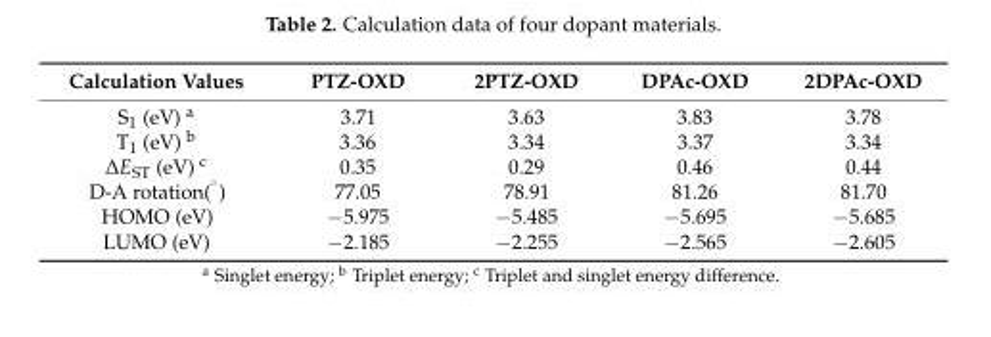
<table><thead><tr><td>Calculation Values</td><td>PTZ-OXD</td><td>2PTZ-OXD</td><td>DPAc-OXD</td><td>2DPAc-OXD</td></tr></thead><tbody><tr><td>S1 (eV) a T1 (eV) b ∆EST (eV) c D-A rotation( ◦) HOMO (eV) LUMO (eV)</td><td>3.71 3.36 0.35 77.05 −5.975 −2.185</td><td>3.63 3.34 0.29 78.91 −5.485 −2.255</td><td>3.83 3.37 0.46 81.26 −5.695 −2.565</td><td>3.78 3.34 0.44 81.70 −5.685 −2.605</td></tr></tbody></table>